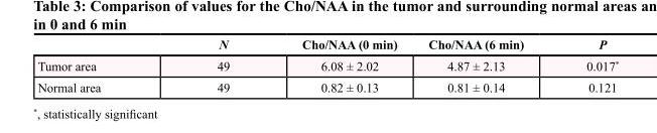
<table><thead><tr><td></td><td>N</td><td>Cho/NAA (0 min)</td><td>Cho/NAA (6 min)</td><td>P</td></tr></thead><tbody><tr><td>Tumor area</td><td>49</td><td>6.08 ± 2.02</td><td>4.87 ± 2.13</td><td>0.017*</td></tr><tr><td>Normal area</td><td>49</td><td>0.82 ± 0.13</td><td>0.81 ± 0.14</td><td>0.121</td></tr></tbody></table>